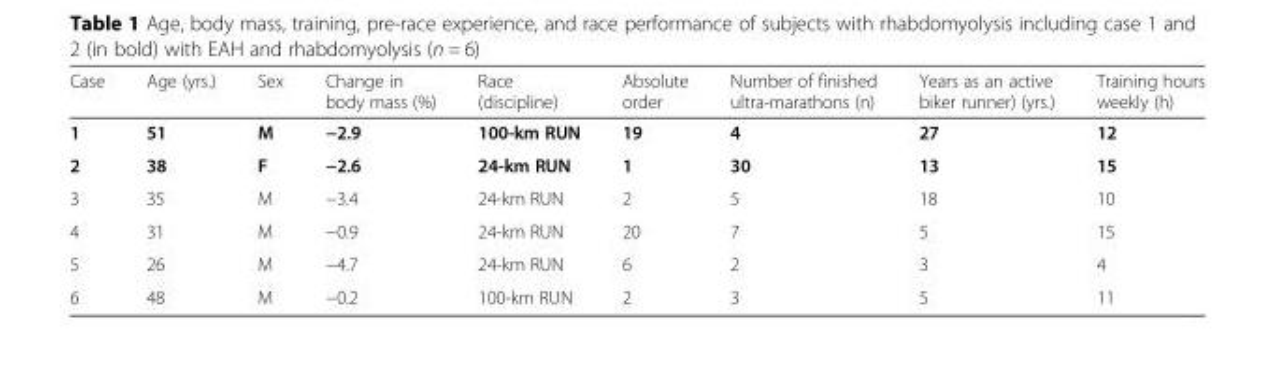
<table><thead><tr><td>Case</td><td>Age (yrs.)</td><td>Sex</td><td>Change in body mass (%)</td><td>Race (discipline)</td><td>Absolute order</td><td>Number of finished ultra-marathons (n)</td><td>Years as an active biker runner) (yrs.)</td><td>Training hours weekly (h)</td></tr></thead><tbody><tr><td>1</td><td>51</td><td>M</td><td>−2.9</td><td>100-km RUN</td><td>19</td><td>4</td><td>27</td><td>12</td></tr><tr><td>2</td><td>38</td><td>F</td><td>−2.6</td><td>24-km RUN</td><td>1</td><td>30</td><td>13</td><td>15</td></tr><tr><td>3</td><td>35</td><td>M</td><td>−3.4</td><td>24-km RUN</td><td>2</td><td>5</td><td>18</td><td>10</td></tr><tr><td>4</td><td>31</td><td>M</td><td>−0.9</td><td>24-km RUN</td><td>20</td><td>7</td><td>5</td><td>15</td></tr><tr><td>5</td><td>26</td><td>M</td><td>−4.7</td><td>24-km RUN</td><td>6</td><td>2</td><td>3</td><td>4</td></tr><tr><td>6</td><td>48</td><td>M</td><td>−0.2</td><td>100-km RUN</td><td>2</td><td>3</td><td>5</td><td>11</td></tr></tbody></table>